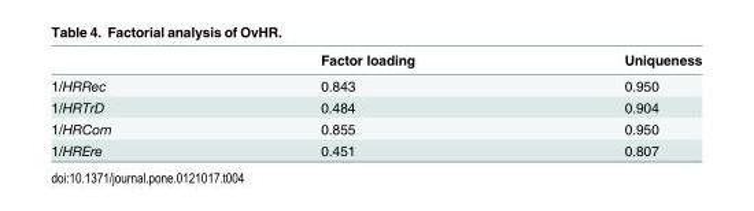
<table><thead><tr><td></td><td>Factor loading</td><td>Uniqueness</td></tr></thead><tbody><tr><td>1/HRRec</td><td>0.843</td><td>0.950</td></tr><tr><td>1/HRTrD</td><td>0.484</td><td>0.904</td></tr><tr><td>1/HRCom</td><td>0.855</td><td>0.950</td></tr><tr><td>1/HREre</td><td>0.451</td><td>0.807</td></tr></tbody></table>